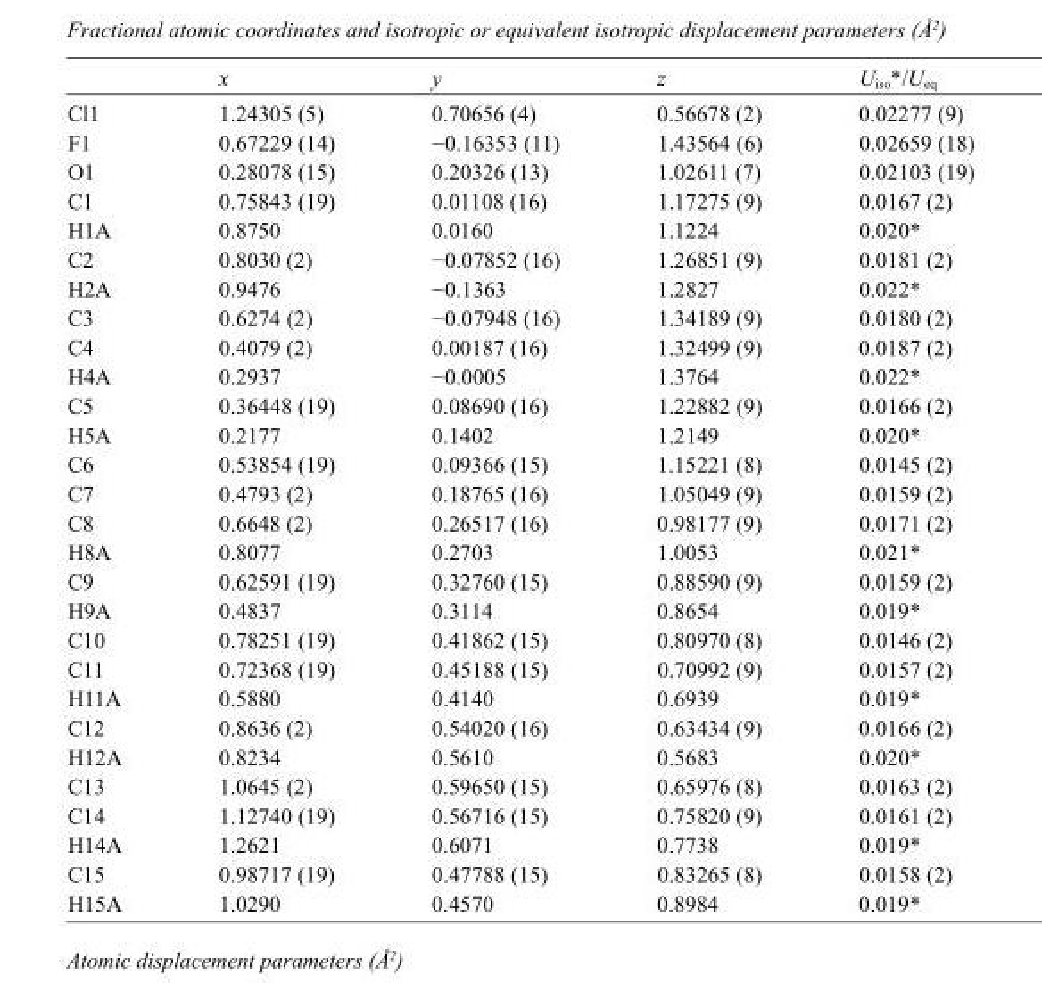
<table><thead><tr><td></td><td>x</td><td>y</td><td>z</td><td>U<sub>iso</sub>*/U<sub>eq</sub></td></tr></thead><tbody><tr><td>Cl1</td><td>1.24305 (5)</td><td>0.70656 (4)</td><td>0.56678 (2)</td><td>0.02277 (9)</td></tr><tr><td>F1</td><td>0.67229 (14)</td><td>−0.16353 (11)</td><td>1.43564 (6)</td><td>0.02659 (18)</td></tr><tr><td>O1</td><td>0.28078 (15)</td><td>0.20326 (13)</td><td>1.02611 (7)</td><td>0.02103 (19)</td></tr><tr><td>C1</td><td>0.75843 (19)</td><td>0.01108 (16)</td><td>1.17275 (9)</td><td>0.0167 (2)</td></tr><tr><td>H1A</td><td>0.8750</td><td>0.0160</td><td>1.1224</td><td>0.020*</td></tr><tr><td>C2</td><td>0.8030 (2)</td><td>−0.07852 (16)</td><td>1.26851 (9)</td><td>0.0181 (2)</td></tr><tr><td>H2A</td><td>0.9476</td><td>−0.1363</td><td>1.2827</td><td>0.022*</td></tr><tr><td>C3</td><td>0.6274 (2)</td><td>−0.07948 (16)</td><td>1.34189 (9)</td><td>0.0180 (2)</td></tr><tr><td>C4</td><td>0.4079 (2)</td><td>0.00187 (16)</td><td>1.32499 (9)</td><td>0.0187 (2)</td></tr><tr><td>H4A</td><td>0.2937</td><td>−0.0005</td><td>1.3764</td><td>0.022*</td></tr><tr><td>C5</td><td>0.36448 (19)</td><td>0.08690 (16)</td><td>1.22882 (9)</td><td>0.0166 (2)</td></tr><tr><td>H5A</td><td>0.2177</td><td>0.1402</td><td>1.2149</td><td>0.020*</td></tr><tr><td>C6</td><td>0.53854 (19)</td><td>0.09366 (15)</td><td>1.15221 (8)</td><td>0.0145 (2)</td></tr><tr><td>C7</td><td>0.4793 (2)</td><td>0.18765 (16)</td><td>1.05049 (9)</td><td>0.0159 (2)</td></tr><tr><td>C8</td><td>0.6648 (2)</td><td>0.26517 (16)</td><td>0.98177 (9)</td><td>0.0171 (2)</td></tr><tr><td>H8A</td><td>0.8077</td><td>0.2703</td><td>1.0053</td><td>0.021*</td></tr><tr><td>C9</td><td>0.62591 (19)</td><td>0.32760 (15)</td><td>0.88590 (9)</td><td>0.0159 (2)</td></tr><tr><td>H9A</td><td>0.4837</td><td>0.3114</td><td>0.8654</td><td>0.019*</td></tr><tr><td>C10</td><td>0.78251 (19)</td><td>0.41862 (15)</td><td>0.80970 (8)</td><td>0.0146 (2)</td></tr><tr><td>C11</td><td>0.72368 (19)</td><td>0.45188 (15)</td><td>0.70992 (9)</td><td>0.0157 (2)</td></tr><tr><td>H11A</td><td>0.5880</td><td>0.4140</td><td>0.6939</td><td>0.019*</td></tr><tr><td>C12</td><td>0.8636 (2)</td><td>0.54020 (16)</td><td>0.63434 (9)</td><td>0.0166 (2)</td></tr><tr><td>H12A</td><td>0.8234</td><td>0.5610</td><td>0.5683</td><td>0.020*</td></tr><tr><td>C13</td><td>1.0645 (2)</td><td>0.59650 (15)</td><td>0.65976 (8)</td><td>0.0163 (2)</td></tr><tr><td>C14</td><td>1.12740 (19)</td><td>0.56716 (15)</td><td>0.75820 (9)</td><td>0.0161 (2)</td></tr><tr><td>H14A</td><td>1.2621</td><td>0.6071</td><td>0.7738</td><td>0.019*</td></tr><tr><td>C15</td><td>0.98717 (19)</td><td>0.47788 (15)</td><td>0.83265 (8)</td><td>0.0158 (2)</td></tr><tr><td>H15A</td><td>1.0290</td><td>0.4570</td><td>0.8984</td><td>0.019*</td></tr></tbody></table>